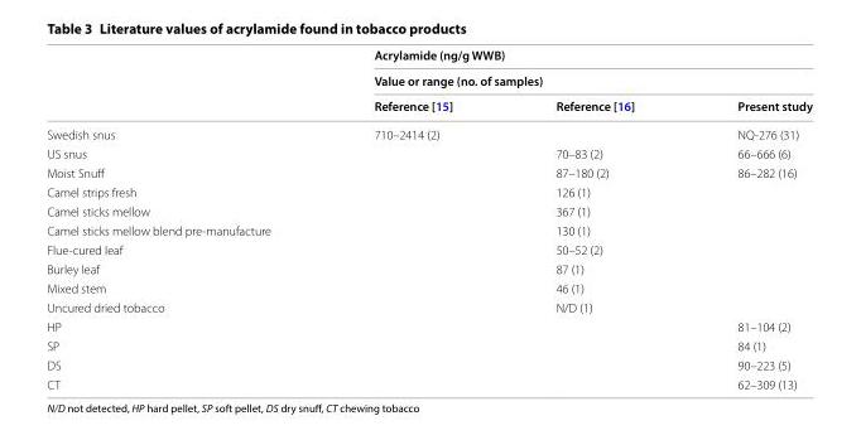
<table><thead><tr><td rowspan="3"></td><td rowspan="2" colspan="3">Acrylamide (ng/g WWB) Value or range (no. of samples)</td></tr><tr></tr><tr><td>Reference [15]</td><td>Reference [16]</td><td>Present study</td></tr></thead><tbody><tr><td>Swedish snus</td><td>710–2414 (2)</td><td></td><td>NQ-276 (31)</td></tr><tr><td>US snus</td><td></td><td>70–83 (2)</td><td>66–666 (6)</td></tr><tr><td>Moist Snuff</td><td></td><td>87–180 (2)</td><td>86–282 (16)</td></tr><tr><td>Camel strips fresh</td><td></td><td>126 (1)</td><td></td></tr><tr><td>Camel sticks mellow</td><td></td><td>367 (1)</td><td></td></tr><tr><td>Camel sticks mellow blend pre-manufacture</td><td></td><td>130 (1)</td><td></td></tr><tr><td>Flue-cured leaf</td><td></td><td>50–52 (2)</td><td></td></tr><tr><td>Burley leaf</td><td></td><td>87 (1)</td><td></td></tr><tr><td>Mixed stem</td><td></td><td>46 (1)</td><td></td></tr><tr><td>Uncured dried tobacco</td><td></td><td>N/D (1)</td><td></td></tr><tr><td>HP</td><td></td><td></td><td>81–104 (2)</td></tr><tr><td>SP</td><td></td><td></td><td>84 (1)</td></tr><tr><td>DS</td><td></td><td></td><td>90–223 (5)</td></tr><tr><td>CT</td><td></td><td></td><td>62–309 (13)</td></tr></tbody></table>